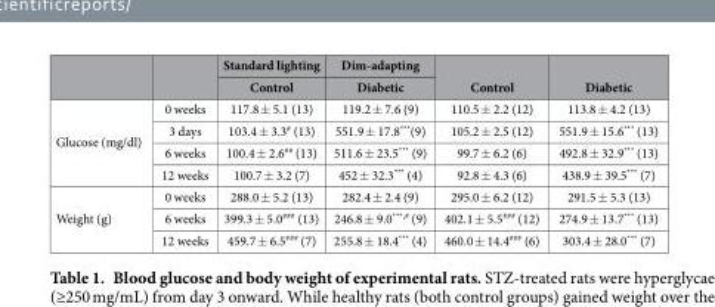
<table><thead><tr><td rowspan="2"></td><td rowspan="2"></td><td rowspan="2">Standard lighting Control</td><td rowspan="2">Dim-adapting Diabetic</td><td rowspan="2">Control</td><td rowspan="2">Diabetic</td></tr><tr></tr></thead><tbody><tr><td rowspan="4">Glucose (mg/dl)</td><td>0 weeks</td><td>117.8 ± 5.1 (13)</td><td>119.2 ± 7.6 (9)</td><td>110.5 ± 2.2 (12)</td><td>113.8 ± 4.2 (13)</td></tr><tr><td>3 days</td><td>103.4 ± 3.3<sup>#</sup> (13)</td><td>551.9 ± 17.8***(9)</td><td>105.2 ± 2.5 (12)</td><td>551.9 ± 15.6*** (13)</td></tr><tr><td>6 weeks</td><td>100.4 ± 2.6<sup>##</sup> (13)</td><td>511.6 ± 23.5*** (9)</td><td>99.7 ± 6.2 (6)</td><td>492.8 ± 32.9*** (13)</td></tr><tr><td>12 weeks</td><td>100.7 ± 3.2 (7)</td><td>452 ± 32.3*** (4)</td><td>92.8 ± 4.3 (6)</td><td>438.9 ± 39.5*** (7)</td></tr><tr><td rowspan="3">Weight (g)</td><td>0 weeks</td><td>288.0 ± 5.2 (13)</td><td>282.4 ± 2.4 (9)</td><td>295.0 ± 6.2 (12)</td><td>291.5 ± 5.3 (13)</td></tr><tr><td>6 weeks</td><td>399.3 ± 5.0<sup>###</sup> (13)</td><td>246.8 ± 9.0<sup>***,#</sup> (9)</td><td>402.1 ± 5.5<sup>###</sup> (12)</td><td>274.9 ± 13.7*** (13)</td></tr><tr><td>12 weeks</td><td>459.7 ± 6.5<sup>###</sup> (7)</td><td>255.8 ± 18.4*** (4)</td><td>460.0 ± 14.4<sup>###</sup> (6)</td><td>303.4 ± 28.0*** (7)</td></tr></tbody></table>